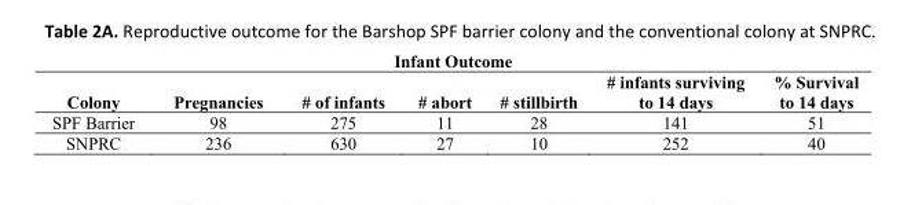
<table><thead><tr><td colspan="7">Infant Outcome</td></tr><tr><td>Colony</td><td>Pregnancies</td><td># of infants</td><td># abort</td><td># stillbirth</td><td># infants surviving to 14 days</td><td>% Survival to 14 days</td></tr></thead><tbody><tr><td>SPF Barrier</td><td>98</td><td>275</td><td>11</td><td>28</td><td>141</td><td>51</td></tr><tr><td>SNPRC</td><td>236</td><td>630</td><td>27</td><td>10</td><td>252</td><td>40</td></tr></tbody></table>